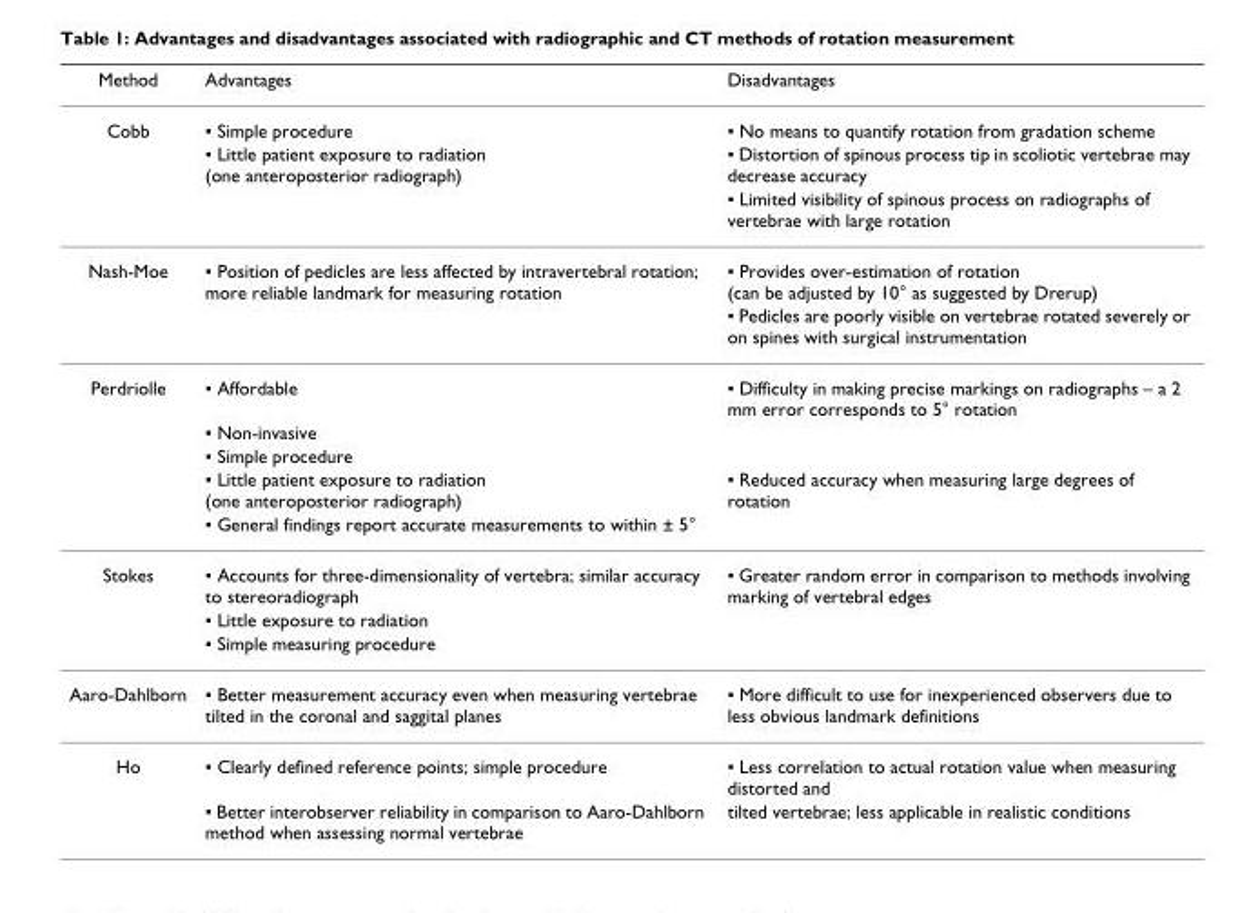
<table><thead><tr><td>Method</td><td>Advantages</td><td>Disadvantages</td></tr></thead><tbody><tr><td rowspan="3">Cobb</td><td>▪ Simple procedure</td><td>▪ No means to quantify rotation from gradation scheme</td></tr><tr><td>▪ Little patient exposure to radiation (one anteroposterior radiograph)</td><td>▪ Distortion of spinous process tip in scoliotic vertebrae may decrease accuracy</td></tr><tr><td></td><td>▪ Limited visibility of spinous process on radiographs of vertebrae with large rotation</td></tr><tr><td rowspan="2">Nash-Moe</td><td>▪ Position of pedicles are less affected by intravertebral rotation; more reliable landmark for measuring rotation</td><td>▪ Provides over-estimation of rotation (can be adjusted by 10° as suggested by Drerup)</td></tr><tr><td></td><td>▪ Pedicles are poorly visible on vertebrae rotated severely or on spines with surgical instrumentation</td></tr><tr><td rowspan="5">Perdriolle</td><td>▪ Affordable</td><td>▪ Difficulty in making precise markings on radiographs – a 2 mm error corresponds to 5° rotation</td></tr><tr><td>▪ Non-invasive</td><td></td></tr><tr><td>▪ Simple procedure</td><td></td></tr><tr><td>▪ Little patient exposure to radiation (one anteroposterior radiograph)</td><td>▪ Reduced accuracy when measuring large degrees of rotation</td></tr><tr><td>▪ General findings report accurate measurements to within ± 5°</td><td></td></tr><tr><td rowspan="3">Stokes</td><td>▪ Accounts for three-dimensionality of vertebra; similar accuracy to stereoradiograph</td><td>▪ Greater random error in comparison to methods involving marking of vertebral edges</td></tr><tr><td>▪ Little exposure to radiation</td><td></td></tr><tr><td>▪ Simple measuring procedure</td><td></td></tr><tr><td>Aaro-Dahlborn</td><td>▪ Better measurement accuracy even when measuring vertebrae tilted in the coronal and saggital planes</td><td>▪ More difficult to use for inexperienced observers due to less obvious landmark definitions</td></tr><tr><td rowspan="2">Ho</td><td>▪ Clearly defined reference points; simple procedure</td><td>▪ Less correlation to actual rotation value when measuring distorted and</td></tr><tr><td>▪ Better interobserver reliability in comparison to Aaro-Dahlborn method when assessing normal vertebrae</td><td>tilted vertebrae; less applicable in realistic conditions</td></tr></tbody></table>